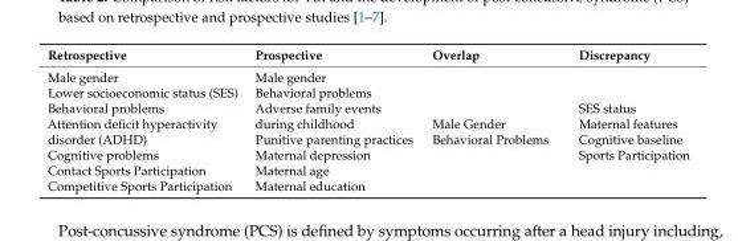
<table><thead><tr><td>Retrospective</td><td>Prospective</td><td>Overlap</td><td>Discrepancy</td></tr></thead><tbody><tr><td>Male gender Lower socioeconomic status (SES) Behavioral problems Attention deficit hyperactivity disorder (ADHD) Cognitive problems Contact Sports Participation Competitive Sports Participation</td><td>Male gender Behavioral problems Adverse family events during childhood Punitive parenting practices Maternal depression Maternal age Maternal education</td><td>Male Gender Behavioral Problems</td><td>SES status Maternal features Cognitive baseline Sports Participation</td></tr></tbody></table>